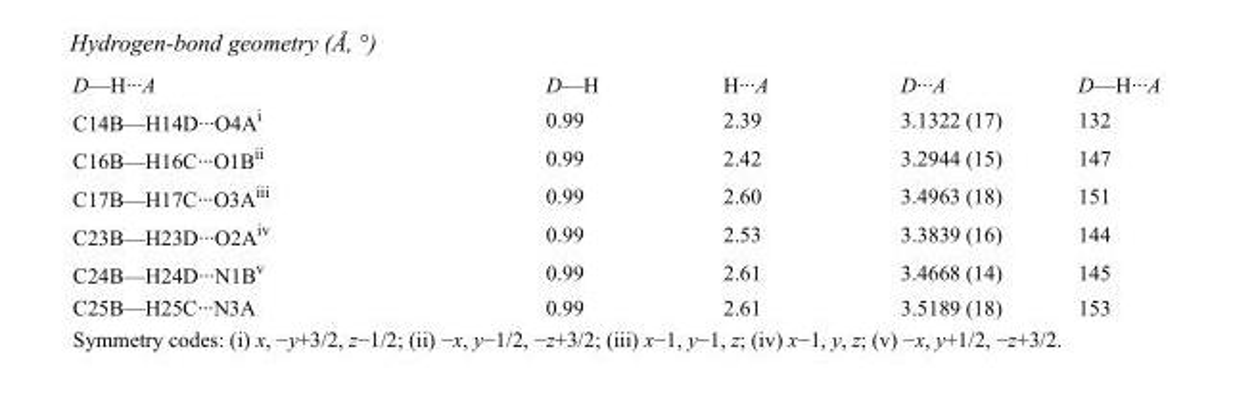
<table><tbody><tr><td>D—H···A</td><td>D—H</td><td>H···A</td><td>D···A</td><td>D—H···A</td></tr><tr><td>C14B—H14D···O4A<sup>i</sup></td><td>0.99</td><td>2.39</td><td>3.1322 (17)</td><td>132</td></tr><tr><td>C16B—H16C···O1B<sup>ii</sup></td><td>0.99</td><td>2.42</td><td>3.2944 (15)</td><td>147</td></tr><tr><td>C17B—H17C···O3A<sup>iii</sup></td><td>0.99</td><td>2.60</td><td>3.4963 (18)</td><td>151</td></tr><tr><td>C23B—H23D···O2A<sup>iv</sup></td><td>0.99</td><td>2.53</td><td>3.3839 (16)</td><td>144</td></tr><tr><td>C24B—H24D···N1B<sup>v</sup></td><td>0.99</td><td>2.61</td><td>3.4668 (14)</td><td>145</td></tr><tr><td>C25B—H25C···N3A</td><td>0.99</td><td>2.61</td><td>3.5189 (18)</td><td>153</td></tr></tbody></table>